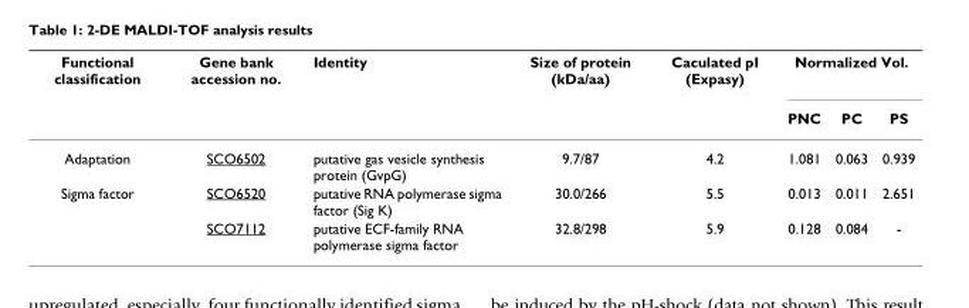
<table><thead><tr><td rowspan="2">Functional classification</td><td rowspan="2">Gene bank accession no.</td><td rowspan="2">Identity</td><td rowspan="2">Size of protein (kDa/aa)</td><td rowspan="2">Caculated pI (Expasy)</td><td colspan="3">Normalized Vol.</td></tr><tr><td>PNC</td><td>PC</td><td>PS</td></tr></thead><tbody><tr><td>Adaptation</td><td>SCO6502</td><td>putative gas vesicle synthesis protein (GvpG)</td><td>9.7/87</td><td>4.2</td><td>1.081</td><td>0.063</td><td>0.939</td></tr><tr><td rowspan="2">Sigma factor</td><td>SCO6520</td><td>putative RNA polymerase sigma factor (Sig K)</td><td>30.0/266</td><td>5.5</td><td>0.013</td><td>0.011</td><td>2.651</td></tr><tr><td>SCO7112</td><td>putative ECF-family RNA polymerase sigma factor</td><td>32.8/298</td><td>5.9</td><td>0.128</td><td>0.084</td><td>-</td></tr></tbody></table>